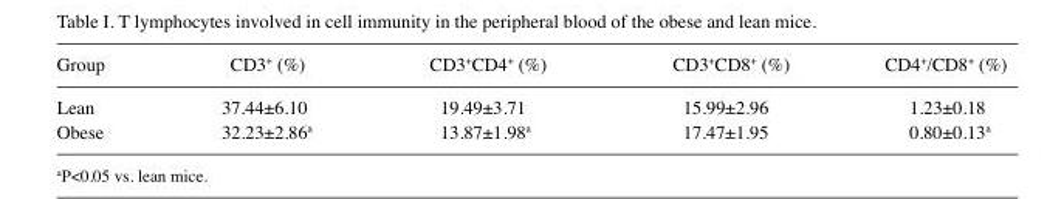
<table><thead><tr><td>Group</td><td>CD3<sup>+</sup> (%)</td><td>CD3<sup>+</sup>CD4<sup>+</sup> (%)</td><td>CD3<sup>+</sup>CD8<sup>+</sup> (%)</td><td>CD4<sup>+</sup>/CD8<sup>+</sup> (%)</td></tr></thead><tbody><tr><td>Lean</td><td>37.44±6.10</td><td>19.49±3.71</td><td>15.99±2.96</td><td>1.23±0.18</td></tr><tr><td>Obese</td><td>32.23±2.86<sup>a</sup></td><td>13.87±1.98<sup>a</sup></td><td>17.47±1.95</td><td>0.80±0.13<sup>a</sup></td></tr></tbody></table>